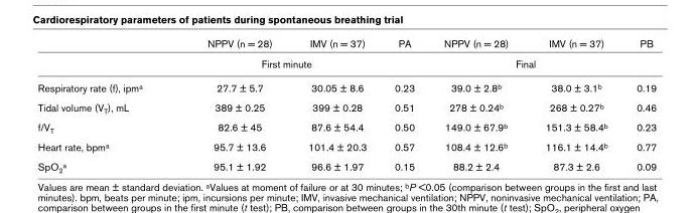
<table><thead><tr><td></td><td>NPPV (n = 28)</td><td>IMV (n = 37)</td><td>PA</td><td>NPPV (n = 28)</td><td>IMV (n = 37)</td><td>PB</td></tr></thead><tbody><tr><td></td><td colspan="2">First minute</td><td></td><td colspan="2">Final</td><td></td></tr><tr><td>Respiratory rate (f), ipm<sup>a</sup></td><td>27.7 ± 5.7</td><td>30.05 ± 8.6</td><td>0.23</td><td>39.0 ± 2.8<sup>b</sup></td><td>38.0 ± 3.1<sup>b</sup></td><td>0.19</td></tr><tr><td>Tidal volume (V<sub>T</sub>), mL</td><td>389 ± 0.25</td><td>399 ± 0.28</td><td>0.51</td><td>278 ± 0.24<sup>b</sup></td><td>268 ± 0.27<sup>b</sup></td><td>0.46</td></tr><tr><td>f/V<sub>T</sub></td><td>82.6 ± 45</td><td>87.6 ± 54.4</td><td>0.50</td><td>149.0 ± 67.9<sup>b</sup></td><td>151.3 ± 58.4<sup>b</sup></td><td>0.23</td></tr><tr><td>Heart rate, bpm<sup>a</sup></td><td>95.7 ± 13.6</td><td>101.4 ± 20.3</td><td>0.57</td><td>108.4 ± 12.6<sup>b</sup></td><td>116.1 ± 14.4<sup>b</sup></td><td>0.77</td></tr><tr><td>SpO<sub>2</sub><sup>a</sup></td><td>95.1 ± 1.92</td><td>96.6 ± 1.97</td><td>0.15</td><td>88.2 ± 2.4</td><td>87.3 ± 2.6</td><td>0.09</td></tr></tbody></table>